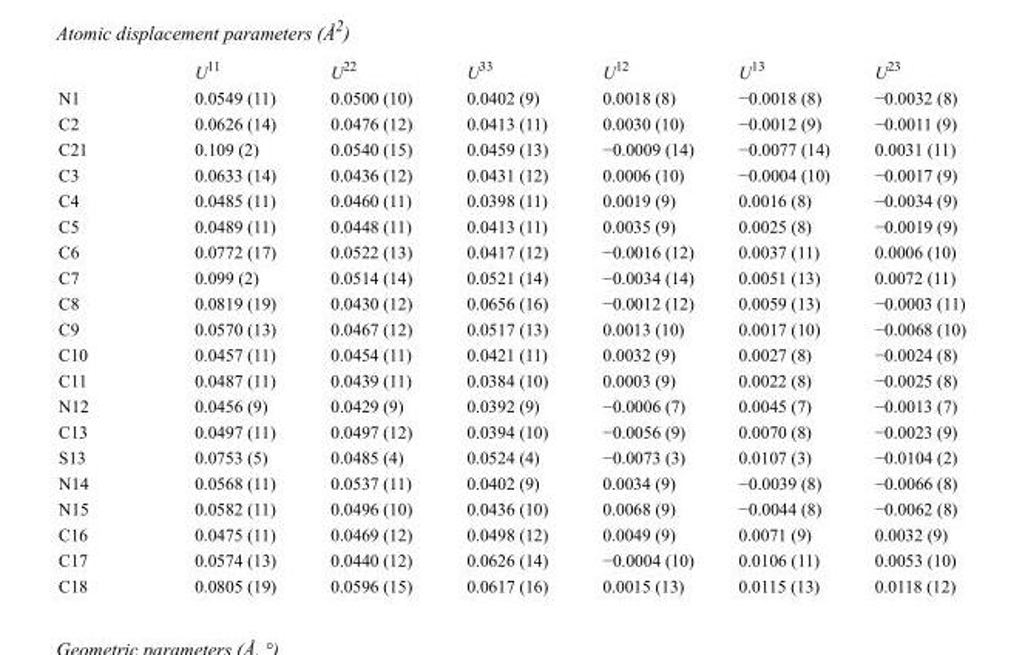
<table><thead><tr><td></td><td>U<sup>11</sup></td><td>U<sup>22</sup></td><td>U<sup>33</sup></td><td>U<sup>12</sup></td><td>U<sup>13</sup></td><td>U<sup>23</sup></td></tr></thead><tbody><tr><td>N1</td><td>0.0549 (11)</td><td>0.0500 (10)</td><td>0.0402 (9)</td><td>0.0018 (8)</td><td>−0.0018 (8)</td><td>−0.0032 (8)</td></tr><tr><td>C2</td><td>0.0626 (14)</td><td>0.0476 (12)</td><td>0.0413 (11)</td><td>0.0030 (10)</td><td>−0.0012 (9)</td><td>−0.0011 (9)</td></tr><tr><td>C21</td><td>0.109 (2)</td><td>0.0540 (15)</td><td>0.0459 (13)</td><td>−0.0009 (14)</td><td>−0.0077 (14)</td><td>0.0031 (11)</td></tr><tr><td>C3</td><td>0.0633 (14)</td><td>0.0436 (12)</td><td>0.0431 (12)</td><td>0.0006 (10)</td><td>−0.0004 (10)</td><td>−0.0017 (9)</td></tr><tr><td>C4</td><td>0.0485 (11)</td><td>0.0460 (11)</td><td>0.0398 (11)</td><td>0.0019 (9)</td><td>0.0016 (8)</td><td>−0.0034 (9)</td></tr><tr><td>C5</td><td>0.0489 (11)</td><td>0.0448 (11)</td><td>0.0413 (11)</td><td>0.0035 (9)</td><td>0.0025 (8)</td><td>−0.0019 (9)</td></tr><tr><td>C6</td><td>0.0772 (17)</td><td>0.0522 (13)</td><td>0.0417 (12)</td><td>−0.0016 (12)</td><td>0.0037 (11)</td><td>0.0006 (10)</td></tr><tr><td>C7</td><td>0.099 (2)</td><td>0.0514 (14)</td><td>0.0521 (14)</td><td>−0.0034 (14)</td><td>0.0051 (13)</td><td>0.0072 (11)</td></tr><tr><td>C8</td><td>0.0819 (19)</td><td>0.0430 (12)</td><td>0.0656 (16)</td><td>−0.0012 (12)</td><td>0.0059 (13)</td><td>−0.0003 (11)</td></tr><tr><td>C9</td><td>0.0570 (13)</td><td>0.0467 (12)</td><td>0.0517 (13)</td><td>0.0013 (10)</td><td>0.0017 (10)</td><td>−0.0068 (10)</td></tr><tr><td>C10</td><td>0.0457 (11)</td><td>0.0454 (11)</td><td>0.0421 (11)</td><td>0.0032 (9)</td><td>0.0027 (8)</td><td>−0.0024 (8)</td></tr><tr><td>C11</td><td>0.0487 (11)</td><td>0.0439 (11)</td><td>0.0384 (10)</td><td>0.0003 (9)</td><td>0.0022 (8)</td><td>−0.0025 (8)</td></tr><tr><td>N12</td><td>0.0456 (9)</td><td>0.0429 (9)</td><td>0.0392 (9)</td><td>−0.0006 (7)</td><td>0.0045 (7)</td><td>−0.0013 (7)</td></tr><tr><td>C13</td><td>0.0497 (11)</td><td>0.0497 (12)</td><td>0.0394 (10)</td><td>−0.0056 (9)</td><td>0.0070 (8)</td><td>−0.0023 (9)</td></tr><tr><td>S13</td><td>0.0753 (5)</td><td>0.0485 (4)</td><td>0.0524 (4)</td><td>−0.0073 (3)</td><td>0.0107 (3)</td><td>−0.0104 (2)</td></tr><tr><td>N14</td><td>0.0568 (11)</td><td>0.0537 (11)</td><td>0.0402 (9)</td><td>0.0034 (9)</td><td>−0.0039 (8)</td><td>−0.0066 (8)</td></tr><tr><td>N15</td><td>0.0582 (11)</td><td>0.0496 (10)</td><td>0.0436 (10)</td><td>0.0068 (9)</td><td>−0.0044 (8)</td><td>−0.0062 (8)</td></tr><tr><td>C16</td><td>0.0475 (11)</td><td>0.0469 (12)</td><td>0.0498 (12)</td><td>0.0049 (9)</td><td>0.0071 (9)</td><td>0.0032 (9)</td></tr><tr><td>C17</td><td>0.0574 (13)</td><td>0.0440 (12)</td><td>0.0626 (14)</td><td>−0.0004 (10)</td><td>0.0106 (11)</td><td>0.0053 (10)</td></tr><tr><td>C18</td><td>0.0805 (19)</td><td>0.0596 (15)</td><td>0.0617 (16)</td><td>0.0015 (13)</td><td>0.0115 (13)</td><td>0.0118 (12)</td></tr></tbody></table>